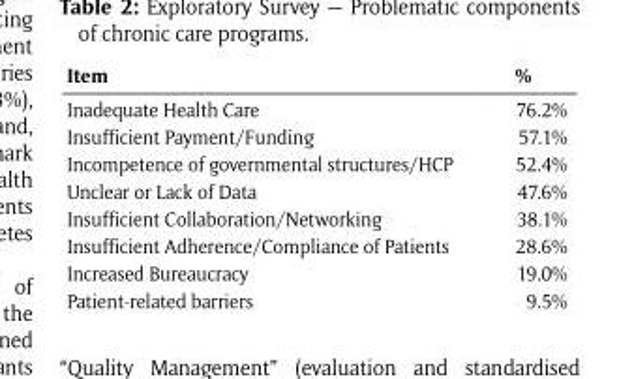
<table><thead><tr><td>Item</td><td>%</td></tr></thead><tbody><tr><td>Inadequate Health Care</td><td>76.2%</td></tr><tr><td>Insufficient Payment/Funding</td><td>57.1%</td></tr><tr><td>Incompetence of governmental structures/HCP</td><td>52.4%</td></tr><tr><td>Unclear or Lack of Data</td><td>47.6%</td></tr><tr><td>Insufficient Collaboration/Networking</td><td>38.1%</td></tr><tr><td>Insufficient Adherence/Compliance of Patients</td><td>28.6%</td></tr><tr><td>Increased Bureaucracy</td><td>19.0%</td></tr><tr><td>Patient-related barriers</td><td>9.5%</td></tr></tbody></table>